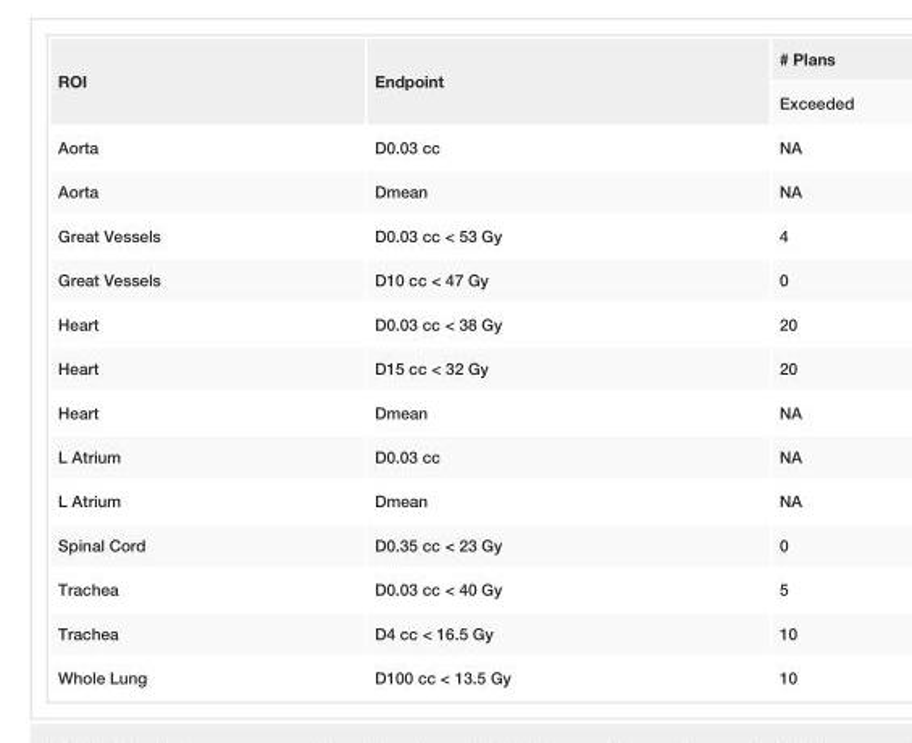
<table><tbody><tr><td rowspan="2">ROI</td><td rowspan="2">Endpoint</td><td># Plans</td></tr><tr><td>Exceeded</td></tr><tr><td>Aorta</td><td>D0.03 cc</td><td>NA</td></tr><tr><td>Aorta</td><td>Dmean</td><td>NA</td></tr><tr><td>Great Vessels</td><td>D0.03 cc &lt; 53 Gy</td><td>4</td></tr><tr><td>Great Vessels</td><td>D10 cc &lt; 47 Gy</td><td>0</td></tr><tr><td>Heart</td><td>D0.03 cc &lt; 38 Gy</td><td>20</td></tr><tr><td>Heart</td><td>D15 cc &lt; 32 Gy</td><td>20</td></tr><tr><td>Heart</td><td>Dmean</td><td>NA</td></tr><tr><td>L Atrium</td><td>D0.03 cc</td><td>NA</td></tr><tr><td>L Atrium</td><td>Dmean</td><td>NA</td></tr><tr><td>Spinal Cord</td><td>D0.35 cc &lt; 23 Gy</td><td>0</td></tr><tr><td>Trachea</td><td>D0.03 cc &lt; 40 Gy</td><td>5</td></tr><tr><td>Trachea</td><td>D4 cc &lt; 16.5 Gy</td><td>10</td></tr><tr><td>Whole Lung</td><td>D100 cc &lt; 13.5 Gy</td><td>10</td></tr></tbody></table>